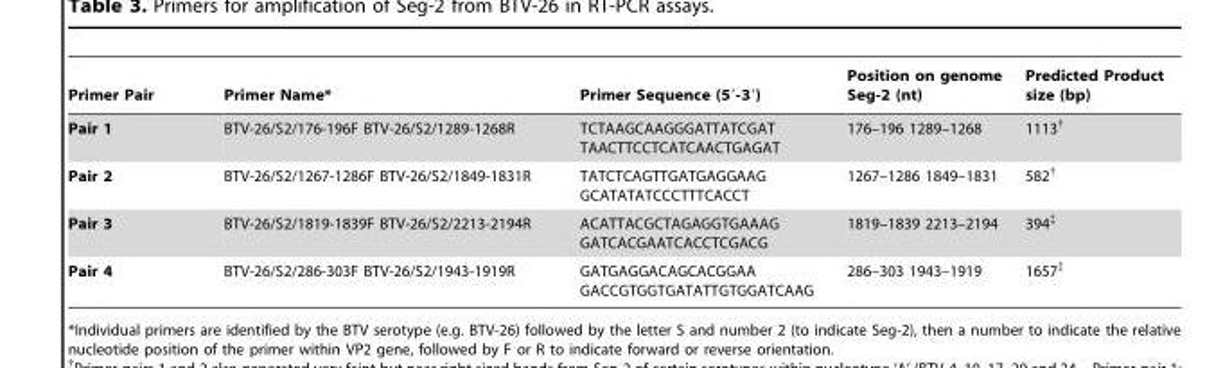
<table><thead><tr><td>Primer Pair</td><td>Primer Name*</td><td>Primer Sequence (5′-3′)</td><td>Position on genome Seg-2 (nt)</td><td>Predicted Product size (bp)</td></tr></thead><tbody><tr><td>Pair 1</td><td>BTV-26/S2/176-196F BTV-26/S2/1289-1268R</td><td>TCTAAGCAAGGGATTATCGAT TAACTTCCTCATCAACTGAGAT</td><td>176–196 1289–1268</td><td>1113†</td></tr><tr><td>Pair 2</td><td>BTV-26/S2/1267-1286F BTV-26/S2/1849-1831R</td><td>TATCTCAGTTGATGAGGAAG GCATATATCCCTTTCACCT</td><td>1267–1286 1849–1831</td><td>582†</td></tr><tr><td>Pair 3</td><td>BTV-26/S2/1819-1839F BTV-26/S2/2213-2194R</td><td>ACATTACGCTAGAGGTGAAAG GATCACGAATCACCTCGACG</td><td>1819–1839 2213–2194</td><td>394‡</td></tr><tr><td>Pair 4</td><td>BTV-26/S2/286-303F BTV-26/S2/1943-1919R</td><td>GATGAGGACAGCACGGAA GACCGTGGTGATATTGTGGATCAAG</td><td>286–303 1943–1919</td><td>1657‡</td></tr></tbody></table>